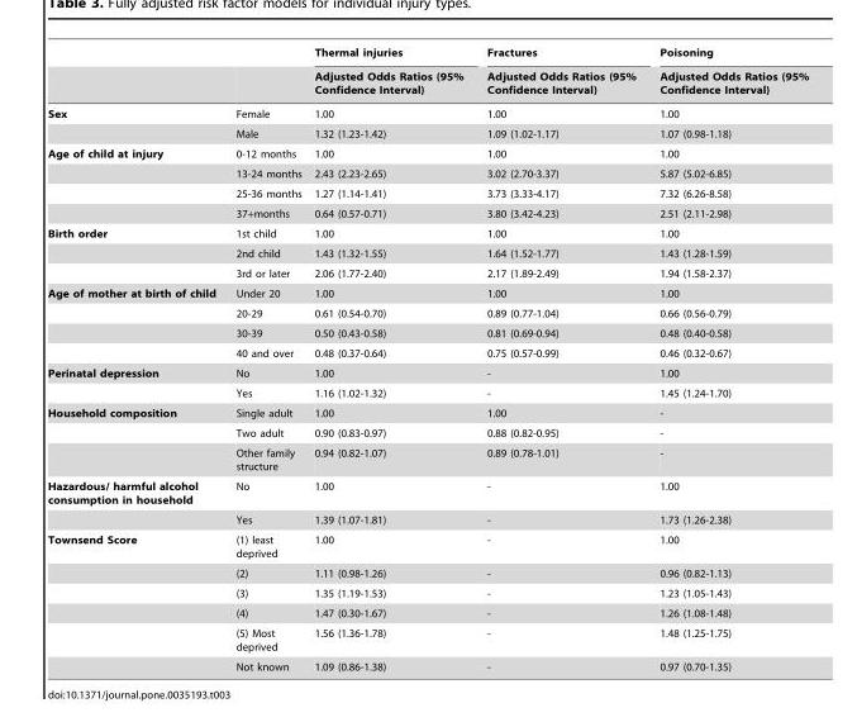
<table><thead><tr><td rowspan="2"></td><td rowspan="2"></td><td rowspan="2">Thermal injuries Adjusted Odds Ratios (95% Confidence Interval)</td><td rowspan="2">Fractures Adjusted Odds Ratios (95% Confidence Interval)</td><td rowspan="2">Poisoning Adjusted Odds Ratios (95% Confidence Interval)</td></tr><tr></tr></thead><tbody><tr><td rowspan="2">Sex</td><td>Female</td><td>1.00</td><td>1.00</td><td>1.00</td></tr><tr><td>Male</td><td>1.32 (1.23-1.42)</td><td>1.09 (1.02-1.17)</td><td>1.07 (0.98-1.18)</td></tr><tr><td rowspan="4">Age of child at injury</td><td>0-12 months</td><td>1.00</td><td>1.00</td><td>1.00</td></tr><tr><td>13-24 months</td><td>2.43 (2.23-2.65)</td><td>3.02 (2.70-3.37)</td><td>5.87 (5.02-6.85)</td></tr><tr><td>25-36 months</td><td>1.27 (1.14-1.41)</td><td>3.73 (3.33-4.17)</td><td>7.32 (6.26-8.58)</td></tr><tr><td>37+months</td><td>0.64 (0.57-0.71)</td><td>3.80 (3.42-4.23)</td><td>2.51 (2.11-2.98)</td></tr><tr><td rowspan="3">Birth order</td><td>1st child</td><td>1.00</td><td>1.00</td><td>1.00</td></tr><tr><td>2nd child</td><td>1.43 (1.32-1.55)</td><td>1.64 (1.52-1.77)</td><td>1.43 (1.28-1.59)</td></tr><tr><td>3rd or later</td><td>2.06 (1.77-2.40)</td><td>2.17 (1.89-2.49)</td><td>1.94 (1.58-2.37)</td></tr><tr><td rowspan="4">Age of mother at birth of child</td><td>Under 20</td><td>1.00</td><td>1.00</td><td>1.00</td></tr><tr><td>20-29</td><td>0.61 (0.54-0.70)</td><td>0.89 (0.77-1.04)</td><td>0.66 (0.56-0.79)</td></tr><tr><td>30-39</td><td>0.50 (0.43-0.58)</td><td>0.81 (0.69-0.94)</td><td>0.48 (0.40-0.58)</td></tr><tr><td>40 and over</td><td>0.48 (0.37-0.64)</td><td>0.75 (0.57-0.99)</td><td>0.46 (0.32-0.67)</td></tr><tr><td rowspan="2">Perinatal depression</td><td>No</td><td>1.00</td><td>-</td><td>1.00</td></tr><tr><td>Yes</td><td>1.16 (1.02-1.32)</td><td>-</td><td>1.45 (1.24-1.70)</td></tr><tr><td rowspan="3">Household composition</td><td>Single adult</td><td>1.00</td><td>1.00</td><td>-</td></tr><tr><td>Two adult</td><td>0.90 (0.83-0.97)</td><td>0.88 (0.82-0.95)</td><td>-</td></tr><tr><td>Other family structure</td><td>0.94 (0.82-1.07)</td><td>0.89 (0.78-1.01)</td><td>-</td></tr><tr><td rowspan="2">Hazardous/ harmful alcohol consumption in household</td><td>No</td><td>1.00</td><td>-</td><td>1.00</td></tr><tr><td>Yes</td><td>1.39 (1.07-1.81)</td><td>-</td><td>1.73 (1.26-2.38)</td></tr><tr><td rowspan="6">Townsend Score</td><td>(1) least deprived</td><td>1.00</td><td>-</td><td>1.00</td></tr><tr><td>(2)</td><td>1.11 (0.98-1.26)</td><td>-</td><td>0.96 (0.82-1.13)</td></tr><tr><td>(3)</td><td>1.35 (1.19-1.53)</td><td>-</td><td>1.23 (1.05-1.43)</td></tr><tr><td>(4)</td><td>1.47 (0.30-1.67)</td><td>-</td><td>1.26 (1.08-1.48)</td></tr><tr><td>(5) Most deprived</td><td>1.56 (1.36-1.78)</td><td>-</td><td>1.48 (1.25-1.75)</td></tr><tr><td>Not known</td><td>1.09 (0.86-1.38)</td><td>-</td><td>0.97 (0.70-1.35)</td></tr></tbody></table>